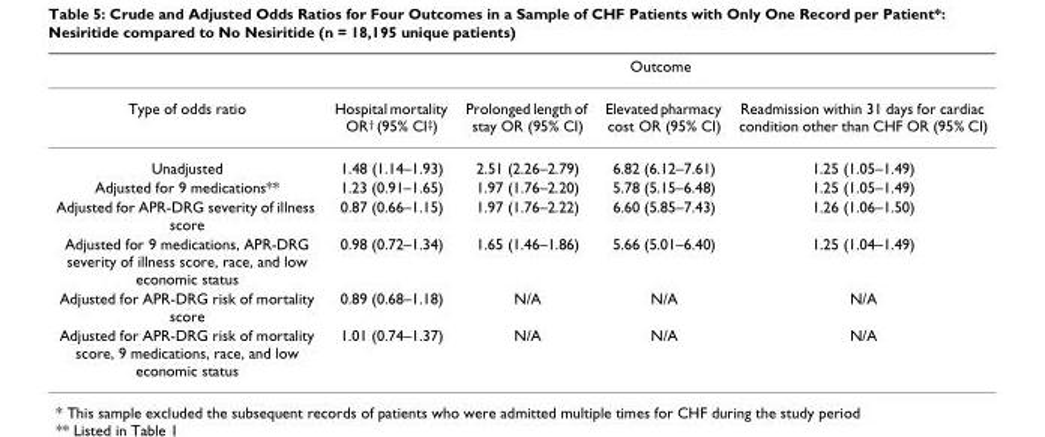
<table><thead><tr><td rowspan="2">Type of odds ratio</td><td colspan="4">Outcome</td></tr><tr><td>Hospital mortality OR<sup>†</sup> (95% CI<sup>‡</sup>)</td><td>Prolonged length of stay OR (95% CI)</td><td>Elevated pharmacy cost OR (95% CI)</td><td>Readmission within 31 days for cardiac condition other than CHF OR (95% CI)</td></tr></thead><tbody><tr><td>Unadjusted</td><td>1.48 (1.14–1.93)</td><td>2.51 (2.26–2.79)</td><td>6.82 (6.12–7.61)</td><td>1.25 (1.05–1.49)</td></tr><tr><td>Adjusted for 9 medications**</td><td>1.23 (0.91–1.65)</td><td>1.97 (1.76–2.20)</td><td>5.78 (5.15–6.48)</td><td>1.25 (1.05–1.49)</td></tr><tr><td>Adjusted for APR-DRG severity of illness score</td><td>0.87 (0.66–1.15)</td><td>1.97 (1.76–2.22)</td><td>6.60 (5.85–7.43)</td><td>1.26 (1.06–1.50)</td></tr><tr><td>Adjusted for 9 medications, APR-DRG severity of illness score, race, and low economic status</td><td>0.98 (0.72–1.34)</td><td>1.65 (1.46–1.86)</td><td>5.66 (5.01–6.40)</td><td>1.25 (1.04–1.49)</td></tr><tr><td>Adjusted for APR-DRG risk of mortality score</td><td>0.89 (0.68–1.18)</td><td>N/A</td><td>N/A</td><td>N/A</td></tr><tr><td>Adjusted for APR-DRG risk of mortality score, 9 medications, race, and low economic status</td><td>1.01 (0.74–1.37)</td><td>N/A</td><td>N/A</td><td>N/A</td></tr></tbody></table>